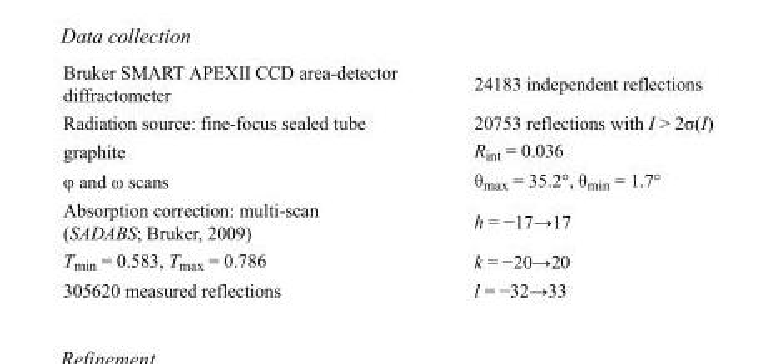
<table><tbody><tr><td>Bruker SMART APEXII CCD area-detector diffractometer</td><td>24183 independent reflections</td></tr><tr><td>Radiation source: fine-focus sealed tube</td><td>20753 reflections with I &gt; 2σ(I)</td></tr><tr><td>graphite</td><td>R<sub>int</sub> = 0.036</td></tr><tr><td>φ and ω scans</td><td>θ<sub>max</sub> = 35.2°, θ<sub>min</sub> = 1.7°</td></tr><tr><td>Absorption correction: multi-scan (SADABS; Bruker, 2009)</td><td>h = −17→17</td></tr><tr><td>T<sub>min</sub> = 0.583, T<sub>max</sub> = 0.786</td><td>k = −20→20</td></tr><tr><td>305620 measured reflections</td><td>l = −32→33</td></tr></tbody></table>